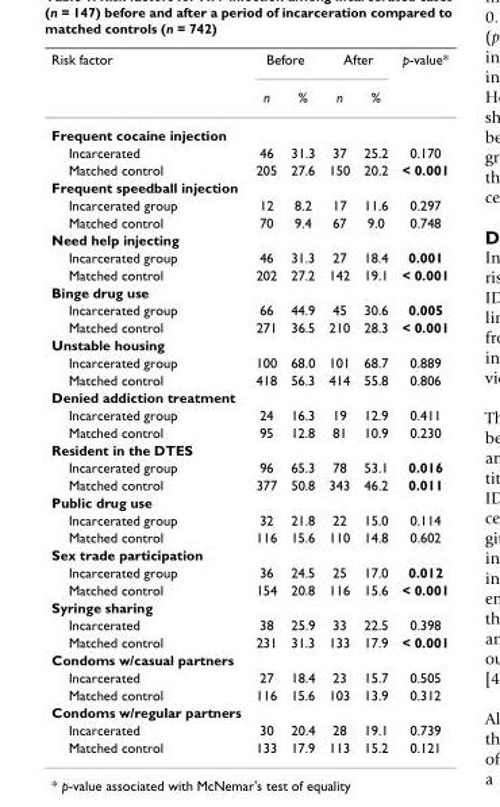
<table><thead><tr><td rowspan="2">Risk factor</td><td colspan="2">Before</td><td colspan="2">After</td><td rowspan="2">p-value*</td></tr><tr><td>n</td><td>%</td><td>n</td><td>%</td></tr></thead><tbody><tr><td colspan="6">Frequent cocaine injection</td></tr><tr><td>Incarcerated</td><td>46</td><td>31.3</td><td>37</td><td>25.2</td><td>0.170</td></tr><tr><td>Matched control</td><td>205</td><td>27.6</td><td>150</td><td>20.2</td><td>&lt; 0.001</td></tr><tr><td colspan="6">Frequent speedball injection</td></tr><tr><td>Incarcerated group</td><td>12</td><td>8.2</td><td>17</td><td>11.6</td><td>0.297</td></tr><tr><td>Matched control</td><td>70</td><td>9.4</td><td>67</td><td>9.0</td><td>0.748</td></tr><tr><td colspan="6">Need help injecting</td></tr><tr><td>Incarcerated group</td><td>46</td><td>31.3</td><td>27</td><td>18.4</td><td>0.001</td></tr><tr><td>Matched control</td><td>202</td><td>27.2</td><td>142</td><td>19.1</td><td>&lt; 0.001</td></tr><tr><td colspan="6">Binge drug use</td></tr><tr><td>Incarcerated group</td><td>66</td><td>44.9</td><td>45</td><td>30.6</td><td>0.005</td></tr><tr><td>Matched control</td><td>271</td><td>36.5</td><td>210</td><td>28.3</td><td>&lt; 0.001</td></tr><tr><td colspan="6">Unstable housing</td></tr><tr><td>Incarcerated group</td><td>100</td><td>68.0</td><td>101</td><td>68.7</td><td>0.889</td></tr><tr><td>Matched control</td><td>418</td><td>56.3</td><td>414</td><td>55.8</td><td>0.806</td></tr><tr><td colspan="6">Denied addiction treatment</td></tr><tr><td>Incarcerated group</td><td>24</td><td>16.3</td><td>19</td><td>12.9</td><td>0.411</td></tr><tr><td>Matched control</td><td>95</td><td>12.8</td><td>81</td><td>10.9</td><td>0.230</td></tr><tr><td colspan="6">Resident in the DTES</td></tr><tr><td>Incarcerated group</td><td>96</td><td>65.3</td><td>78</td><td>53.1</td><td>0.016</td></tr><tr><td>Matched control</td><td>377</td><td>50.8</td><td>343</td><td>46.2</td><td>0.011</td></tr><tr><td colspan="6">Public drug use</td></tr><tr><td>Incarcerated group</td><td>32</td><td>21.8</td><td>22</td><td>15.0</td><td>0.114</td></tr><tr><td>Matched control</td><td>116</td><td>15.6</td><td>110</td><td>14.8</td><td>0.602</td></tr><tr><td colspan="6">Sex trade participation</td></tr><tr><td>Incarcerated group</td><td>36</td><td>24.5</td><td>25</td><td>17.0</td><td>0.012</td></tr><tr><td>Matched control</td><td>154</td><td>20.8</td><td>116</td><td>15.6</td><td>&lt; 0.001</td></tr><tr><td colspan="6">Syringe sharing</td></tr><tr><td>Incarcerated</td><td>38</td><td>25.9</td><td>33</td><td>22.5</td><td>0.398</td></tr><tr><td>Matched control</td><td>231</td><td>31.3</td><td>133</td><td>17.9</td><td>&lt; 0.001</td></tr><tr><td colspan="6">Condoms w/casual partners</td></tr><tr><td>Incarcerated</td><td>27</td><td>18.4</td><td>23</td><td>15.7</td><td>0.505</td></tr><tr><td>Matched control</td><td>116</td><td>15.6</td><td>103</td><td>13.9</td><td>0.312</td></tr><tr><td colspan="6">Condoms w/regular partners</td></tr><tr><td>Incarcerated</td><td>30</td><td>20.4</td><td>28</td><td>19.1</td><td>0.739</td></tr><tr><td>Matched control</td><td>133</td><td>17.9</td><td>113</td><td>15.2</td><td>0.121</td></tr></tbody></table>